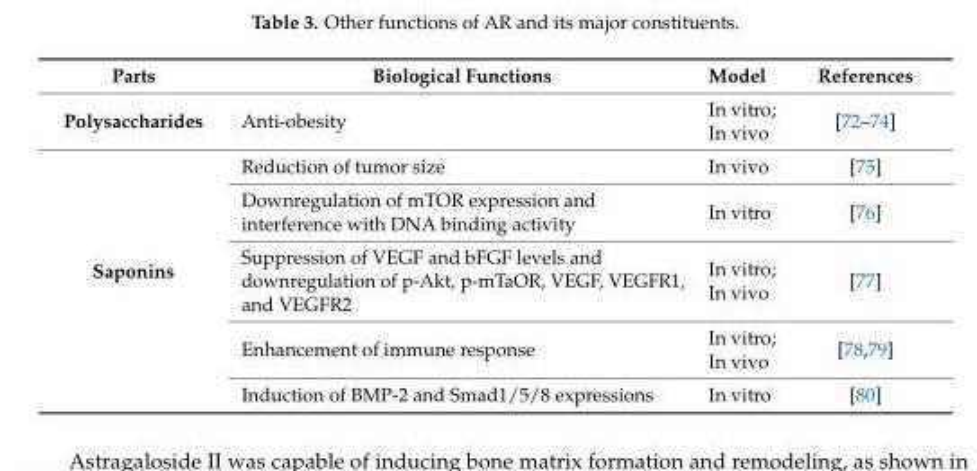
<table><thead><tr><td>Parts</td><td>Biological Functions</td><td>Model</td><td>References</td></tr></thead><tbody><tr><td>Polysaccharides</td><td>Anti-obesity</td><td>In vitro; In vivo</td><td>[72–74]</td></tr><tr><td rowspan="5">Saponins</td><td>Reduction of tumor size</td><td>In vivo</td><td>[75]</td></tr><tr><td>Downregulation of mTOR expression and interference with DNA binding activity</td><td>In vitro</td><td>[76]</td></tr><tr><td>Suppression of VEGF and bFGF levels and downregulation of p-Akt, p-mTaOR, VEGF, VEGFR1, and VEGFR2</td><td>In vitro; In vivo</td><td>[77]</td></tr><tr><td>Enhancement of immune response</td><td>In vitro; In vivo</td><td>[78,79]</td></tr><tr><td>Induction of BMP-2 and Smad1/5/8 expressions</td><td>In vitro</td><td>[80]</td></tr></tbody></table>